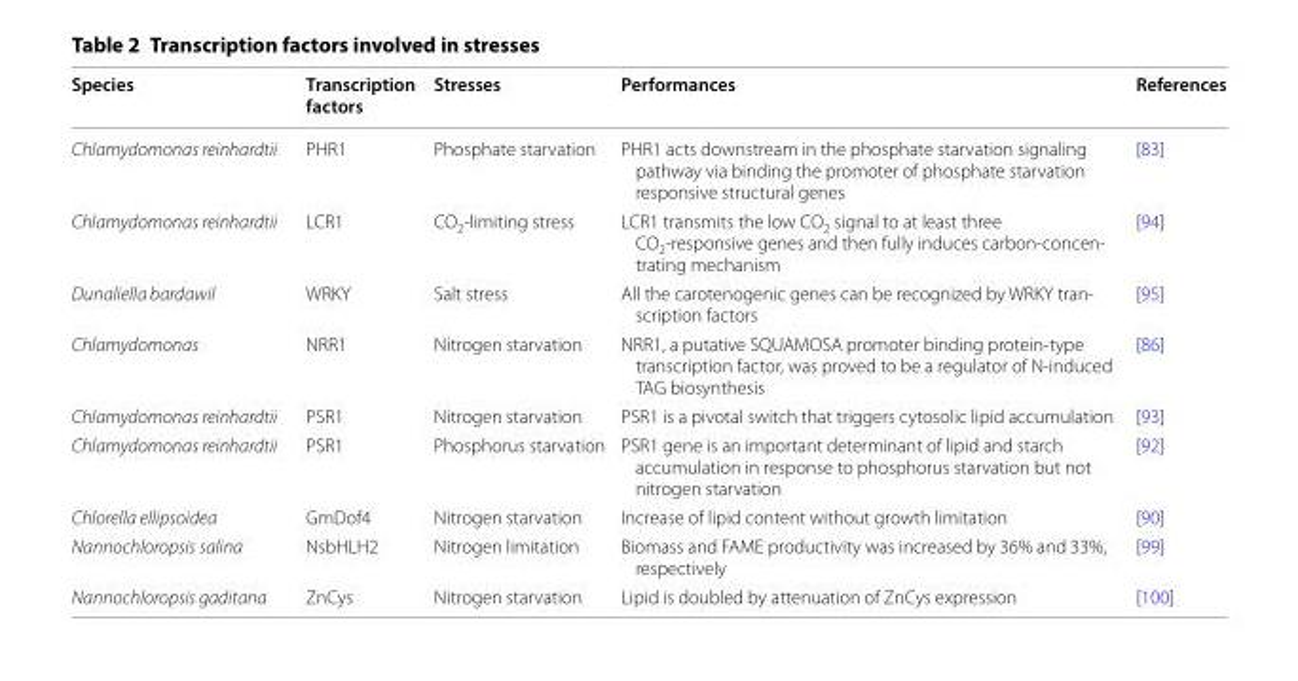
<table><thead><tr><td>Species</td><td>Transcription factors</td><td>Stresses</td><td>Performances</td><td>References</td></tr></thead><tbody><tr><td>Chlamydomonas reinhardtii</td><td>PHR1</td><td>Phosphate starvation</td><td>PHR1 acts downstream in the phosphate starvation signaling pathway via binding the promoter of phosphate starvation responsive structural genes</td><td>[83]</td></tr><tr><td>Chlamydomonas reinhardtii</td><td>LCR1</td><td>CO<sub>2</sub>‑limiting stress</td><td>LCR1 transmits the low CO2 signal to at least three CO2‑responsive genes and then fully induces carbon‑concen‑ trating mechanism</td><td>[94]</td></tr><tr><td>Dunaliella bardawil</td><td>WRKY</td><td>Salt stress</td><td>All the carotenogenic genes can be recognized by WRKY tran‑ scription factors</td><td>[95]</td></tr><tr><td>Chlamydomonas</td><td>NRR1</td><td>Nitrogen starvation</td><td>NRR1, a putative SQUAMOSA promoter binding protein‑type transcription factor, was proved to be a regulator of N‑induced TAG biosynthesis</td><td>[86]</td></tr><tr><td>Chlamydomonas reinhardtii</td><td>PSR1</td><td>Nitrogen starvation</td><td>PSR1 is a pivotal switch that triggers cytosolic lipid accumulation</td><td>[93]</td></tr><tr><td>Chlamydomonas reinhardtii</td><td>PSR1</td><td>Phosphorus starvation</td><td>PSR1 gene is an important determinant of lipid and starch accumulation in response to phosphorus starvation but not nitrogen starvation</td><td>[92]</td></tr><tr><td>Chlorella ellipsoidea</td><td>GmDof4</td><td>Nitrogen starvation</td><td>Increase of lipid content without growth limitation</td><td>[90]</td></tr><tr><td>Nannochloropsis salina</td><td>NsbHLH2</td><td>Nitrogen limitation</td><td>Biomass and FAME productivity was increased by 36% and 33%, respectively</td><td>[99]</td></tr><tr><td>Nannochloropsis gaditana</td><td>ZnCys</td><td>Nitrogen starvation</td><td>Lipid is doubled by attenuation of ZnCys expression</td><td>[100]</td></tr></tbody></table>